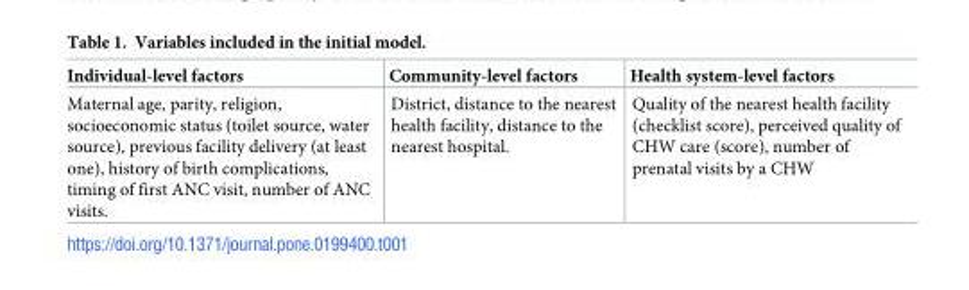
<table><thead><tr><td>Individual-level factors</td><td>Community-level factors</td><td>Health system-level factors</td></tr></thead><tbody><tr><td>Maternal age, parity, religion, socioeconomic status (toilet source, water source), previous facility delivery (at least one), history of birth complications, timing of first ANC visit, number of ANC visits.</td><td>District, distance to the nearest health facility, distance to the nearest hospital.</td><td>Quality of the nearest health facility (checklist score), perceived quality of CHW care (score), number of prenatal visits by a CHW</td></tr></tbody></table>